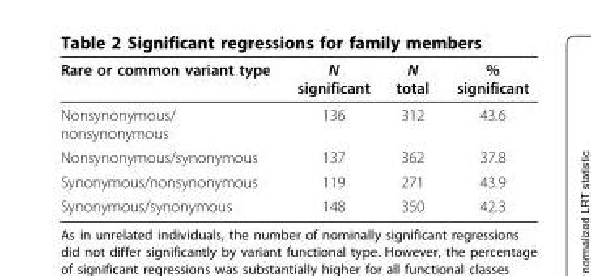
<table><thead><tr><td>Rare or common variant type</td><td>N significant</td><td>N total</td><td>% significant</td></tr></thead><tbody><tr><td>Nonsynonymous/ nonsynonymous</td><td>136</td><td>312</td><td>43.6</td></tr><tr><td>Nonsynonymous/synonymous</td><td>137</td><td>362</td><td>37.8</td></tr><tr><td>Synonymous/nonsynonymous</td><td>119</td><td>271</td><td>43.9</td></tr><tr><td>Synonymous/synonymous</td><td>148</td><td>350</td><td>42.3</td></tr></tbody></table>